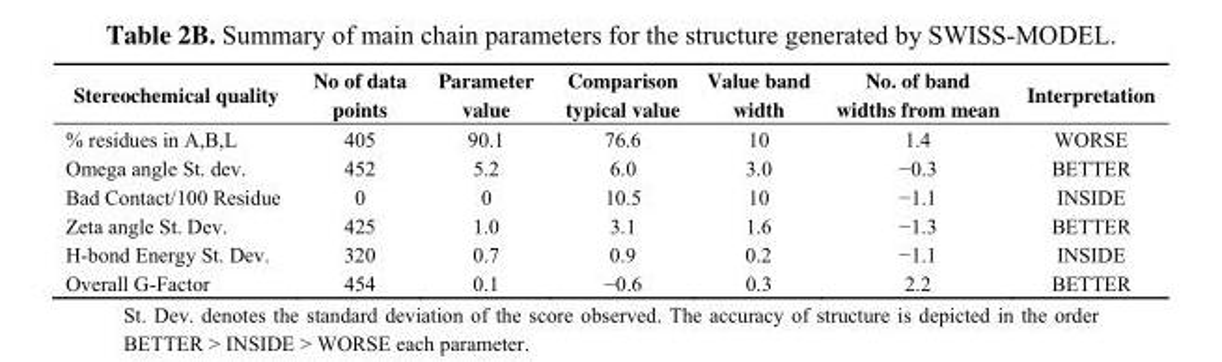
<table><thead><tr><td>Stereochemical quality</td><td>No of data points</td><td>Parameter value</td><td>Comparison typical value</td><td>Value band width</td><td>No. of band widths from mean</td><td>Interpretation</td></tr></thead><tbody><tr><td>% residues in A,B,L</td><td>405</td><td>90.1</td><td>76.6</td><td>10</td><td>1.4</td><td>WORSE</td></tr><tr><td>Omega angle St. dev.</td><td>452</td><td>5.2</td><td>6.0</td><td>3.0</td><td>−0.3</td><td>BETTER</td></tr><tr><td>Bad Contact/100 Residue</td><td>0</td><td>0</td><td>10.5</td><td>10</td><td>−1.1</td><td>INSIDE</td></tr><tr><td>Zeta angle St. Dev.</td><td>425</td><td>1.0</td><td>3.1</td><td>1.6</td><td>−1.3</td><td>BETTER</td></tr><tr><td>H-bond Energy St. Dev.</td><td>320</td><td>0.7</td><td>0.9</td><td>0.2</td><td>−1.1</td><td>INSIDE</td></tr><tr><td>Overall G-Factor</td><td>454</td><td>0.1</td><td>−0.6</td><td>0.3</td><td>2.2</td><td>BETTER</td></tr></tbody></table>